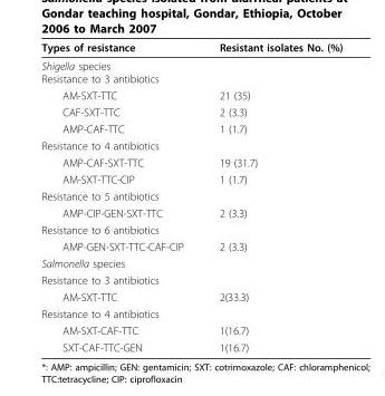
<table><thead><tr><td>Types of resistance</td><td>Resistant isolates No. (%)</td></tr></thead><tbody><tr><td colspan="2">Shigella species Resistance to 3 antibiotics</td></tr><tr><td>AM-SXT-TTC</td><td>21 (35)</td></tr><tr><td>CAF-SXT-TTC</td><td>2 (3.3)</td></tr><tr><td>AMP-CAF-TTC</td><td>1 (1.7)</td></tr><tr><td colspan="2">Resistance to 4 antibiotics</td></tr><tr><td>AMP-CAF-SXT-TTC</td><td>19 (31.7)</td></tr><tr><td>AM-SXT-TTC-CIP</td><td>1 (1.7)</td></tr><tr><td colspan="2">Resistance to 5 antibiotics</td></tr><tr><td>AMP-CIP-GEN-SXT-TTC</td><td>2 (3.3)</td></tr><tr><td colspan="2">Resistance to 6 antibiotics</td></tr><tr><td>AMP-GEN-SXT-TTC-CAF-CIP</td><td>2 (3.3)</td></tr><tr><td colspan="2">Salmonella species</td></tr><tr><td colspan="2">Resistance to 3 antibiotics</td></tr><tr><td>AM-SXT-TTC</td><td>2(33.3)</td></tr><tr><td colspan="2">Resistance to 4 antibiotics</td></tr><tr><td>AM-SXT-CAF-TTC</td><td>1(16.7)</td></tr><tr><td>SXT-CAF-TTC-GEN</td><td>1(16.7)</td></tr></tbody></table>